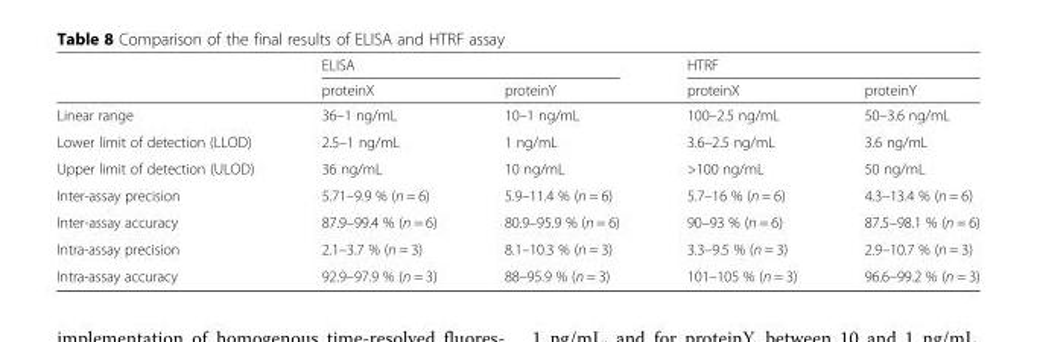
<table><thead><tr><td rowspan="2"></td><td colspan="2">ELISA</td><td colspan="2">HTRF</td></tr><tr><td>proteinX</td><td>proteinY</td><td>proteinX</td><td>proteinY</td></tr></thead><tbody><tr><td>Linear range</td><td>36–1 ng/mL</td><td>10–1 ng/mL</td><td>100–2.5 ng/mL</td><td>50–3.6 ng/mL</td></tr><tr><td>Lower limit of detection (LLOD)</td><td>2.5–1 ng/mL</td><td>1 ng/mL</td><td>3.6–2.5 ng/mL</td><td>3.6 ng/mL</td></tr><tr><td>Upper limit of detection (ULOD)</td><td>36 ng/mL</td><td>10 ng/mL</td><td>&gt;100 ng/mL</td><td>50 ng/mL</td></tr><tr><td>Inter-assay precision</td><td>5.71–9.9 % (n = 6)</td><td>5.9–11.4 % (n = 6)</td><td>5.7–16 % (n = 6)</td><td>4.3–13.4 % (n = 6)</td></tr><tr><td>Inter-assay accuracy</td><td>87.9–99.4 % (n = 6)</td><td>80.9–95.9 % (n = 6)</td><td>90–93 % (n = 6)</td><td>87.5–98.1 % (n = 6)</td></tr><tr><td>Intra-assay precision</td><td>2.1–3.7 % (n = 3)</td><td>8.1–10.3 % (n = 3)</td><td>3.3–9.5 % (n = 3)</td><td>2.9–10.7 % (n = 3)</td></tr><tr><td>Intra-assay accuracy</td><td>92.9–97.9 % (n = 3)</td><td>88–95.9 % (n = 3)</td><td>101–105 % (n = 3)</td><td>96.6–99.2 % (n = 3)</td></tr></tbody></table>